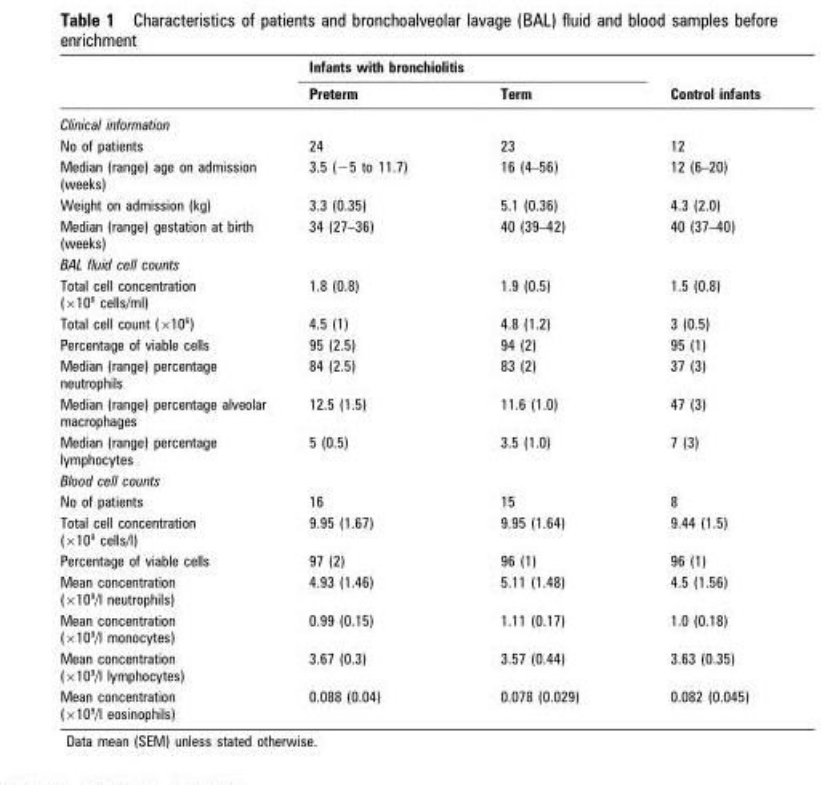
<table><thead><tr><td rowspan="2"></td><td colspan="2">Infants with bronchiolitis</td><td rowspan="2">Control infants</td></tr><tr><td>Preterm</td><td>Term</td></tr></thead><tbody><tr><td colspan="4">Clinical information</td></tr><tr><td>No of patients</td><td>24</td><td>23</td><td>12</td></tr><tr><td>Median (range) age on admission (weeks)</td><td>3.5 (−5 to 11.7)</td><td>16 (4–56)</td><td>12 (6–20)</td></tr><tr><td>Weight on admission (kg)</td><td>3.3 (0.35)</td><td>5.1 (0.36)</td><td>4.3 (2.0)</td></tr><tr><td>Median (range) gestation at birth (weeks)</td><td>34 (27–36)</td><td>40 (39–42)</td><td>40 (37–40)</td></tr><tr><td colspan="4">BAL fluid cell counts</td></tr><tr><td>Total cell concentration (×10<sup>6</sup> cells/ml)</td><td>1.8 (0.8)</td><td>1.9 (0.5)</td><td>1.5 (0.8)</td></tr><tr><td>Total cell count (×10<sup>6</sup>)</td><td>4.5 (1)</td><td>4.8 (1.2)</td><td>3 (0.5)</td></tr><tr><td>Percentage of viable cells</td><td>95 (2.5)</td><td>94 (2)</td><td>95 (1)</td></tr><tr><td>Median (range) percentage neutrophils</td><td>84 (2.5)</td><td>83 (2)</td><td>37 (3)</td></tr><tr><td>Median (range) percentage alveolar macrophages</td><td>12.5 (1.5)</td><td>11.6 (1.0)</td><td>47 (3)</td></tr><tr><td>Median (range) percentage lymphocytes</td><td>5 (0.5)</td><td>3.5 (1.0)</td><td>7 (3)</td></tr><tr><td colspan="4">Blood cell counts</td></tr><tr><td>No of patients</td><td>16</td><td>15</td><td>8</td></tr><tr><td>Total cell concentration (×10<sup>9</sup> cells/l)</td><td>9.95 (1.67)</td><td>9.95 (1.64)</td><td>9.44 (1.5)</td></tr><tr><td>Percentage of viable cells</td><td>97 (2)</td><td>96 (1)</td><td>96 (1)</td></tr><tr><td>Mean concentration (×10<sup>9</sup>/l neutrophils)</td><td>4.93 (1.46)</td><td>5.11 (1.48)</td><td>4.5 (1.56)</td></tr><tr><td>Mean concentration (×10<sup>9</sup>/l monocytes)</td><td>0.99 (0.15)</td><td>1.11 (0.17)</td><td>1.0 (0.18)</td></tr><tr><td>Mean concentration (×10<sup>9</sup>/l lymphocytes)</td><td>3.67 (0.3)</td><td>3.57 (0.44)</td><td>3.63 (0.35)</td></tr><tr><td>Mean concentration (×10<sup>9</sup>/l eosinophils)</td><td>0.088 (0.04)</td><td>0.078 (0.029)</td><td>0.082 (0.045)</td></tr></tbody></table>